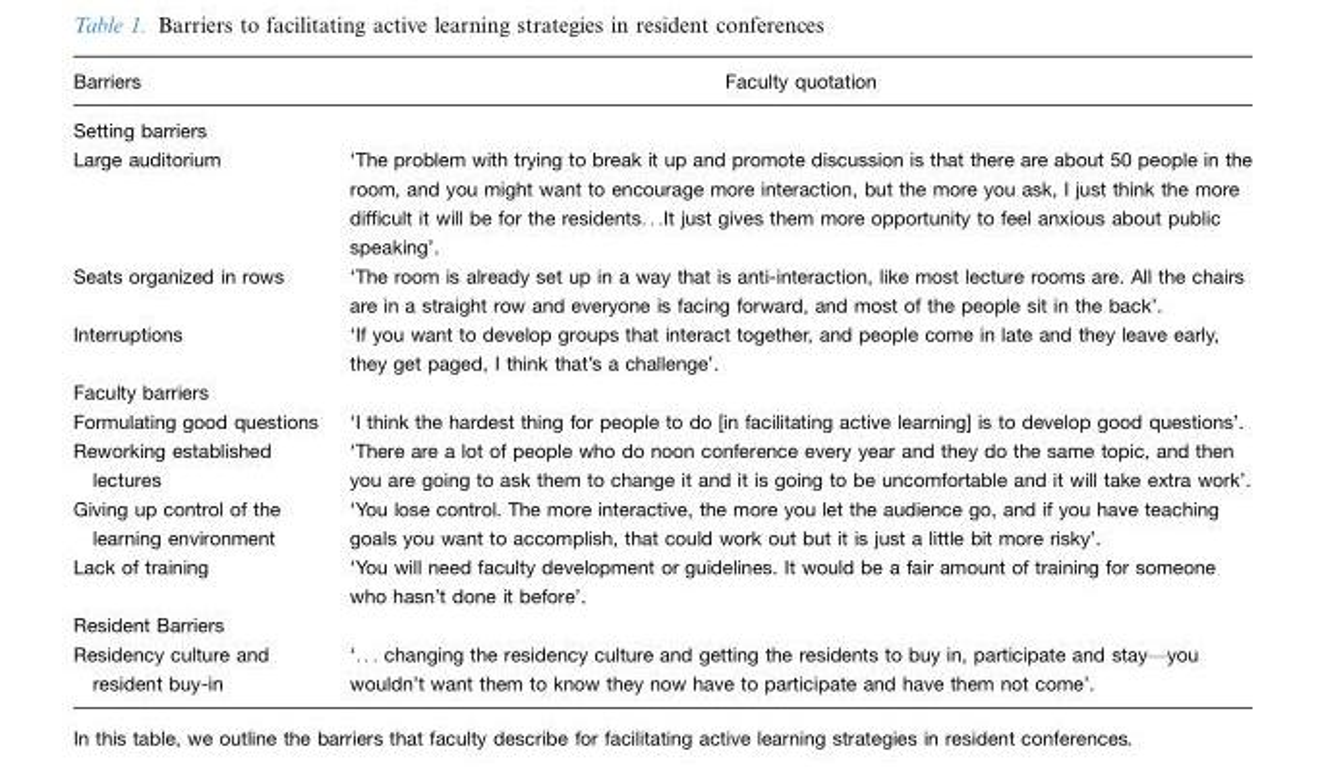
<table><thead><tr><td>Barriers</td><td>Faculty quotation</td></tr></thead><tbody><tr><td colspan="2">Setting barriers</td></tr><tr><td>Large auditorium</td><td>‘The problem with trying to break it up and promote discussion is that there are about 50 people in the room, and you might want to encourage more interaction, but the more you ask, I just think the more difficult it will be for the residents. . .It just gives them more opportunity to feel anxious about public speaking’.</td></tr><tr><td>Seats organized in rows</td><td>‘The room is already set up in a way that is anti-interaction, like most lecture rooms are. All the chairs are in a straight row and everyone is facing forward, and most of the people sit in the back’.</td></tr><tr><td>Interruptions</td><td>‘If you want to develop groups that interact together, and people come in late and they leave early, they get paged, I think that’s a challenge’.</td></tr><tr><td colspan="2">Faculty barriers</td></tr><tr><td>Formulating good questions</td><td>‘I think the hardest thing for people to do [in facilitating active learning] is to develop good questions’.</td></tr><tr><td>Reworking established lectures</td><td>‘There are a lot of people who do noon conference every year and they do the same topic, and then you are going to ask them to change it and it is going to be uncomfortable and it will take extra work’.</td></tr><tr><td>Giving up control of the learning environment</td><td>‘You lose control. The more interactive, the more you let the audience go, and if you have teaching goals you want to accomplish, that could work out but it is just a little bit more risky’.</td></tr><tr><td>Lack of training</td><td>‘You will need faculty development or guidelines. It would be a fair amount of training for someone who hasn’t done it before’.</td></tr><tr><td colspan="2">Resident Barriers</td></tr><tr><td>Residency culture and resident buy-in</td><td>‘. . . changing the residency culture and getting the residents to buy in, participate and stay*you wouldn’t want them to know they now have to participate and have them not come’.</td></tr></tbody></table>